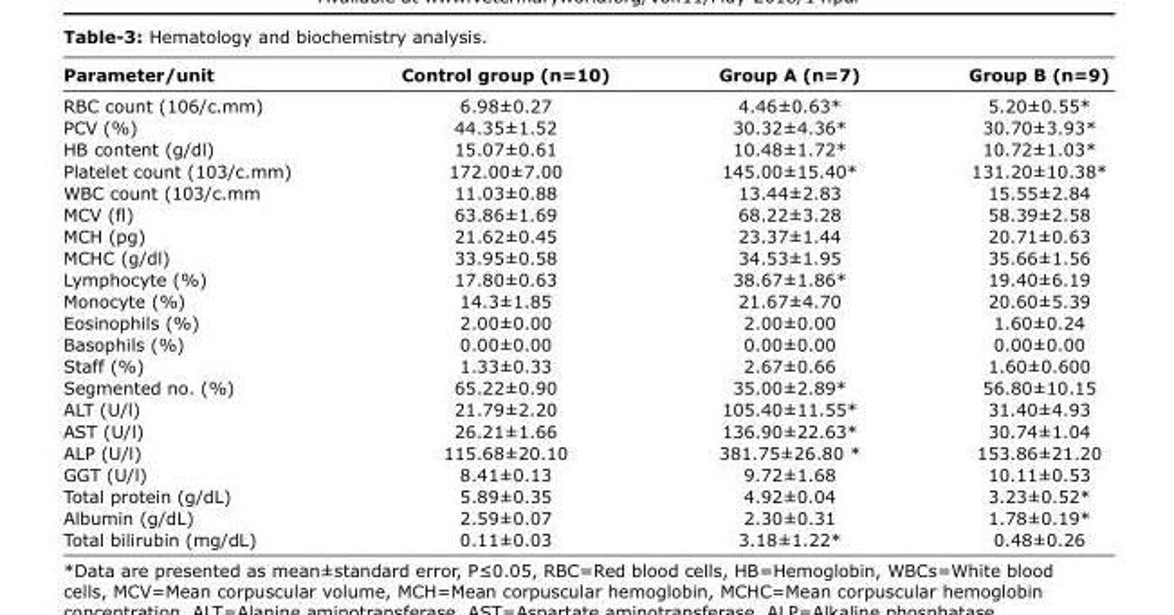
<table><thead><tr><td>Parameter/unit</td><td>Control group (n=10)</td><td>Group A (n=7)</td><td>Group B (n=9)</td></tr></thead><tbody><tr><td>RBC count (106/c.mm)</td><td>6.98±0.27</td><td>4.46±0.63*</td><td>5.20±0.55*</td></tr><tr><td>PCV (%)</td><td>44.35±1.52</td><td>30.32±4.36*</td><td>30.70±3.93*</td></tr><tr><td>HB content (g/dl)</td><td>15.07±0.61</td><td>10.48±1.72*</td><td>10.72±1.03*</td></tr><tr><td>Platelet count (103/c.mm)</td><td>172.00±7.00</td><td>145.00±15.40*</td><td>131.20±10.38*</td></tr><tr><td>WBC count (103/c.mm</td><td>11.03±0.88</td><td>13.44±2.83</td><td>15.55±2.84</td></tr><tr><td>MCV (fl)</td><td>63.86±1.69</td><td>68.22±3.28</td><td>58.39±2.58</td></tr><tr><td>MCH (pg)</td><td>21.62±0.45</td><td>23.37±1.44</td><td>20.71±0.63</td></tr><tr><td>MCHC (g/dl)</td><td>33.95±0.58</td><td>34.53±1.95</td><td>35.66±1.56</td></tr><tr><td>Lymphocyte (%)</td><td>17.80±0.63</td><td>38.67±1.86*</td><td>19.40±6.19</td></tr><tr><td>Monocyte (%)</td><td>14.3±1.85</td><td>21.67±4.70</td><td>20.60±5.39</td></tr><tr><td>Eosinophils (%)</td><td>2.00±0.00</td><td>2.00±0.00</td><td>1.60±0.24</td></tr><tr><td>Basophils (%)</td><td>0.00±0.00</td><td>0.00±0.00</td><td>0.00±0.00</td></tr><tr><td>Staff (%)</td><td>1.33±0.33</td><td>2.67±0.66</td><td>1.60±0.600</td></tr><tr><td>Segmented no. (%)</td><td>65.22±0.90</td><td>35.00±2.89*</td><td>56.80±10.15</td></tr><tr><td>ALT (U/l)</td><td>21.79±2.20</td><td>105.40±11.55*</td><td>31.40±4.93</td></tr><tr><td>AST (U/l)</td><td>26.21±1.66</td><td>136.90±22.63*</td><td>30.74±1.04</td></tr><tr><td>ALP (U/l)</td><td>115.68±20.10</td><td>381.75±26.80 *</td><td>153.86±21.20</td></tr><tr><td>GGT (U/l)</td><td>8.41±0.13</td><td>9.72±1.68</td><td>10.11±0.53</td></tr><tr><td>Total protein (g/dL)</td><td>5.89±0.35</td><td>4.92±0.04</td><td>3.23±0.52*</td></tr><tr><td>Albumin (g/dL)</td><td>2.59±0.07</td><td>2.30±0.31</td><td>1.78±0.19*</td></tr><tr><td>Total bilirubin (mg/dL)</td><td>0.11±0.03</td><td>3.18±1.22*</td><td>0.48±0.26</td></tr></tbody></table>